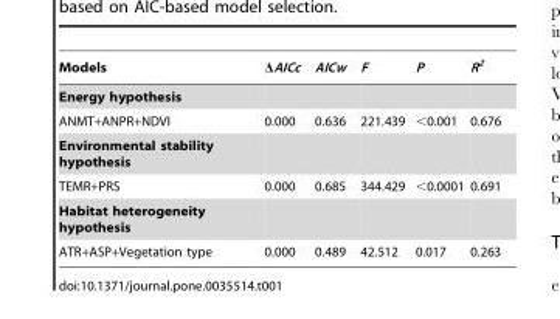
<table><thead><tr><td>Models</td><td>ΔAICc</td><td>AICw</td><td>F</td><td>P</td><td>R<sup>2</sup></td></tr></thead><tbody><tr><td colspan="6">Energy hypothesis</td></tr><tr><td>ANMT+ANPR+NDVI</td><td>0.000</td><td>0.636</td><td>221.439</td><td>&lt;0.001</td><td>0.676</td></tr><tr><td colspan="6">Environmental stability hypothesis</td></tr><tr><td>TEMR+PRS</td><td>0.000</td><td>0.685</td><td>344.429</td><td>&lt;0.0001</td><td>0.691</td></tr><tr><td colspan="6">Habitat heterogeneity hypothesis</td></tr><tr><td>ATR+ASP+Vegetation type</td><td>0.000</td><td>0.489</td><td>42.512</td><td>0.017</td><td>0.263</td></tr></tbody></table>